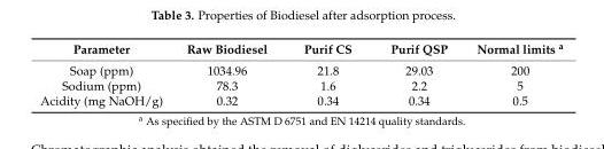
<table><thead><tr><td>Parameter</td><td>Raw Biodiesel</td><td>Purif CS</td><td>Purif QSP</td><td>Normal limits a</td></tr></thead><tbody><tr><td>Soap (ppm)</td><td>1034.96</td><td>21.8</td><td>29.03</td><td>200</td></tr><tr><td>Sodium (ppm)</td><td>78.3</td><td>1.6</td><td>2.2</td><td>5</td></tr><tr><td>Acidity (mg NaOH/g)</td><td>0.32</td><td>0.34</td><td>0.34</td><td>0.5</td></tr></tbody></table>